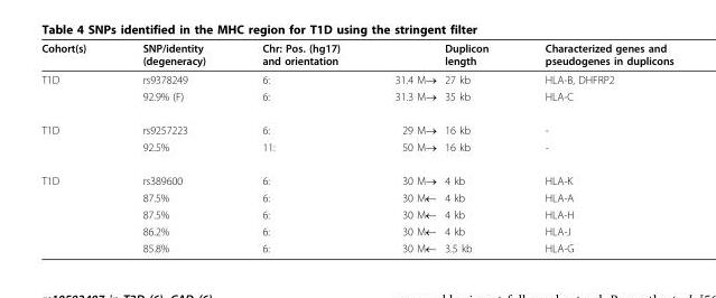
<table><thead><tr><td rowspan="2">Cohort(s) T1D</td><td rowspan="2">SNP/identity (degeneracy) rs9378249</td><td colspan="2">Chr: Pos. (hg17) and orientation</td><td rowspan="2">Duplicon length 27 kb</td><td rowspan="2">Characterized genes and pseudogenes in duplicons HLA-B, DHFRP2</td></tr><tr><td>6:</td><td>31.4 M→</td></tr></thead><tbody><tr><td></td><td>92.9% (F)</td><td>6:</td><td>31.3 M→</td><td>35 kb</td><td>HLA-C</td></tr><tr><td rowspan="2">T1D</td><td>rs9257223</td><td>6:</td><td>29 M→</td><td>16 kb</td><td>-</td></tr><tr><td>92.5%</td><td>11:</td><td>50 M→</td><td>16 kb</td><td>-</td></tr><tr><td rowspan="5">T1D</td><td>rs389600</td><td>6:</td><td>30 M→</td><td>4 kb</td><td>HLA-K</td></tr><tr><td>87.5%</td><td>6:</td><td>30 M¬</td><td>4 kb</td><td>HLA-A</td></tr><tr><td>87.5%</td><td>6:</td><td>30 M¬</td><td>4 kb</td><td>HLA-H</td></tr><tr><td>86.2%</td><td>6:</td><td>30 M¬</td><td>4 kb</td><td>HLA-J</td></tr><tr><td>85.8%</td><td>6:</td><td>30 M¬</td><td>3.5 kb</td><td>HLA-G</td></tr></tbody></table>